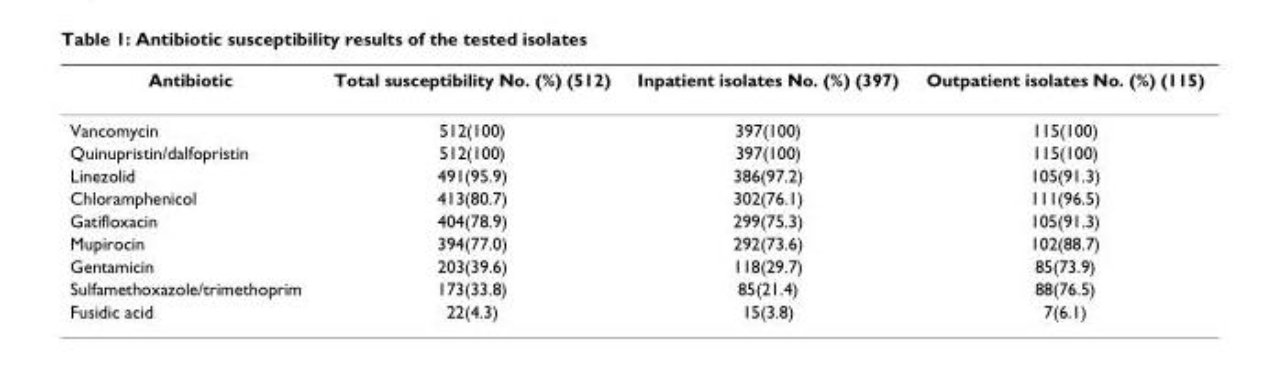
<table><thead><tr><td>Antibiotic</td><td>Total susceptibility No. (%) (512)</td><td>Inpatient isolates No. (%) (397)</td><td>Outpatient isolates No. (%) (115)</td></tr></thead><tbody><tr><td>Vancomycin</td><td>512(100)</td><td>397(100)</td><td>115(100)</td></tr><tr><td>Quinupristin/dalfopristin</td><td>512(100)</td><td>397(100)</td><td>115(100)</td></tr><tr><td>Linezolid</td><td>491(95.9)</td><td>386(97.2)</td><td>105(91.3)</td></tr><tr><td>Chloramphenicol</td><td>413(80.7)</td><td>302(76.1)</td><td>111(96.5)</td></tr><tr><td>Gatifloxacin</td><td>404(78.9)</td><td>299(75.3)</td><td>105(91.3)</td></tr><tr><td>Mupirocin</td><td>394(77.0)</td><td>292(73.6)</td><td>102(88.7)</td></tr><tr><td>Gentamicin</td><td>203(39.6)</td><td>118(29.7)</td><td>85(73.9)</td></tr><tr><td>Sulfamethoxazole/trimethoprim</td><td>173(33.8)</td><td>85(21.4)</td><td>88(76.5)</td></tr><tr><td>Fusidic acid</td><td>22(4.3)</td><td>15(3.8)</td><td>7(6.1)</td></tr></tbody></table>